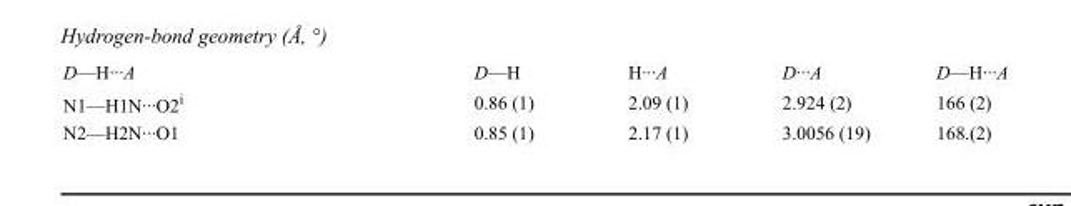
<table><tbody><tr><td>D—H···A</td><td>D—H</td><td>H···A</td><td>D···A</td><td>D—H···A</td></tr><tr><td>N1—H1N···O2<sup>i</sup></td><td>0.86 (1)</td><td>2.09 (1)</td><td>2.924 (2)</td><td>166 (2)</td></tr><tr><td>N2—H2N···O1</td><td>0.85 (1)</td><td>2.17 (1)</td><td>3.0056 (19)</td><td>168.(2)</td></tr></tbody></table>